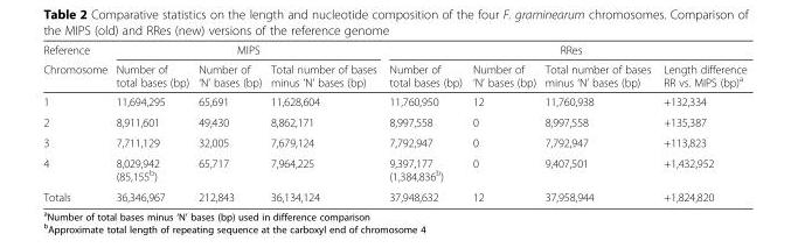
<table><thead><tr><td rowspan="2">Reference Chromosome</td><td colspan="3">MIPS</td><td colspan="4">RRes</td></tr><tr><td>Number of total bases (bp)</td><td>Number of ‘N’ bases (bp)</td><td>Total number of bases minus ‘N’ bases (bp)</td><td>Number of total bases (bp)</td><td>Number of ‘N’ bases (bp)</td><td>Total number of bases minus ‘N’ bases (bp)</td><td>Length difference RR vs. MIPS (bp)<sup>a</sup></td></tr></thead><tbody><tr><td>1</td><td>11,694,295</td><td>65,691</td><td>11,628,604</td><td>11,760,950</td><td>12</td><td>11,760,938</td><td>+132,334</td></tr><tr><td>2</td><td>8,911,601</td><td>49,430</td><td>8,862,171</td><td>8,997,558</td><td>0</td><td>8,997,558</td><td>+135,387</td></tr><tr><td>3</td><td>7,711,129</td><td>32,005</td><td>7,679,124</td><td>7,792,947</td><td>0</td><td>7,792,947</td><td>+113,823</td></tr><tr><td>4</td><td>8,029,942 (85,155<sup>b</sup>)</td><td>65,717</td><td>7,964,225</td><td>9,397,177 (1,384,836<sup>b</sup>)</td><td>0</td><td>9,407,501</td><td>+1,432,952</td></tr><tr><td>Totals</td><td>36,346,967</td><td>212,843</td><td>36,134,124</td><td>37,948,632</td><td>12</td><td>37,958,944</td><td>+1,824,820</td></tr></tbody></table>